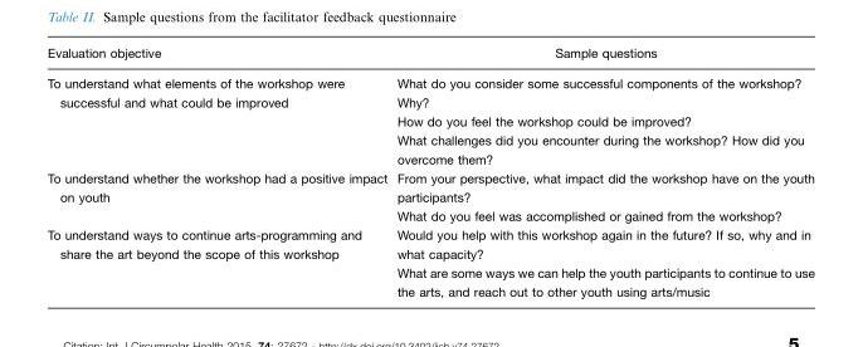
<table><thead><tr><td>Evaluation objective</td><td>Sample questions</td></tr></thead><tbody><tr><td>To understand what elements of the workshop were successful and what could be improved</td><td>What do you consider some successful components of the workshop? Why? How do you feel the workshop could be improved? What challenges did you encounter during the workshop? How did you overcome them?</td></tr><tr><td>To understand whether the workshop had a positive impact on youth</td><td>From your perspective, what impact did the workshop have on the youth participants? What do you feel was accomplished or gained from the workshop?</td></tr><tr><td>To understand ways to continue arts-programming and share the art beyond the scope of this workshop</td><td>Would you help with this workshop again in the future? If so, why and in what capacity? What are some ways we can help the youth participants to continue to use the arts, and reach out to other youth using arts/music</td></tr></tbody></table>